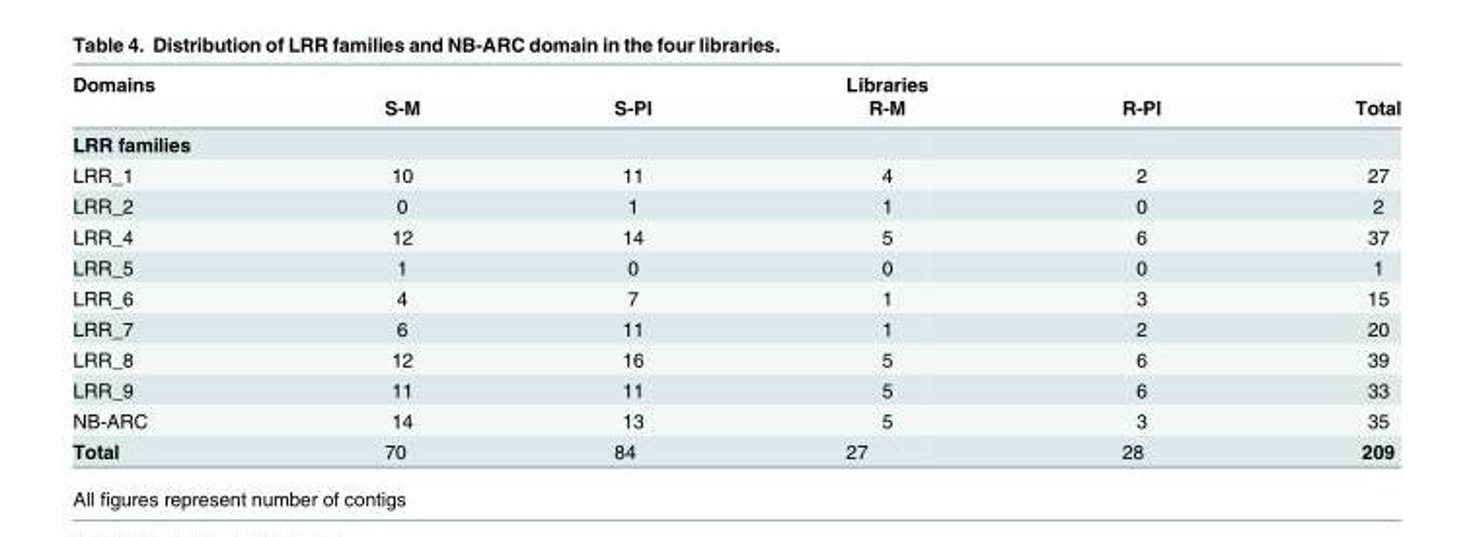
<table><thead><tr><td rowspan="2">Domains</td><td rowspan="2">S-M</td><td rowspan="2">S-PI</td><td rowspan="2">Libraries R-M</td><td rowspan="2">R-PI</td><td rowspan="2">Total</td></tr><tr></tr></thead><tbody><tr><td colspan="6">LRR families</td></tr><tr><td>LRR_1</td><td>10</td><td>11</td><td>4</td><td>2</td><td>27</td></tr><tr><td>LRR_2</td><td>0</td><td>1</td><td>1</td><td>0</td><td>2</td></tr><tr><td>LRR_4</td><td>12</td><td>14</td><td>5</td><td>6</td><td>37</td></tr><tr><td>LRR_5</td><td>1</td><td>0</td><td>0</td><td>0</td><td>1</td></tr><tr><td>LRR_6</td><td>4</td><td>7</td><td>1</td><td>3</td><td>15</td></tr><tr><td>LRR_7</td><td>6</td><td>11</td><td>1</td><td>2</td><td>20</td></tr><tr><td>LRR_8</td><td>12</td><td>16</td><td>5</td><td>6</td><td>39</td></tr><tr><td>LRR_9</td><td>11</td><td>11</td><td>5</td><td>6</td><td>33</td></tr><tr><td>NB-ARC</td><td>14</td><td>13</td><td>5</td><td>3</td><td>35</td></tr><tr><td>Total</td><td>70</td><td>84</td><td>27</td><td>28</td><td>209</td></tr></tbody></table>